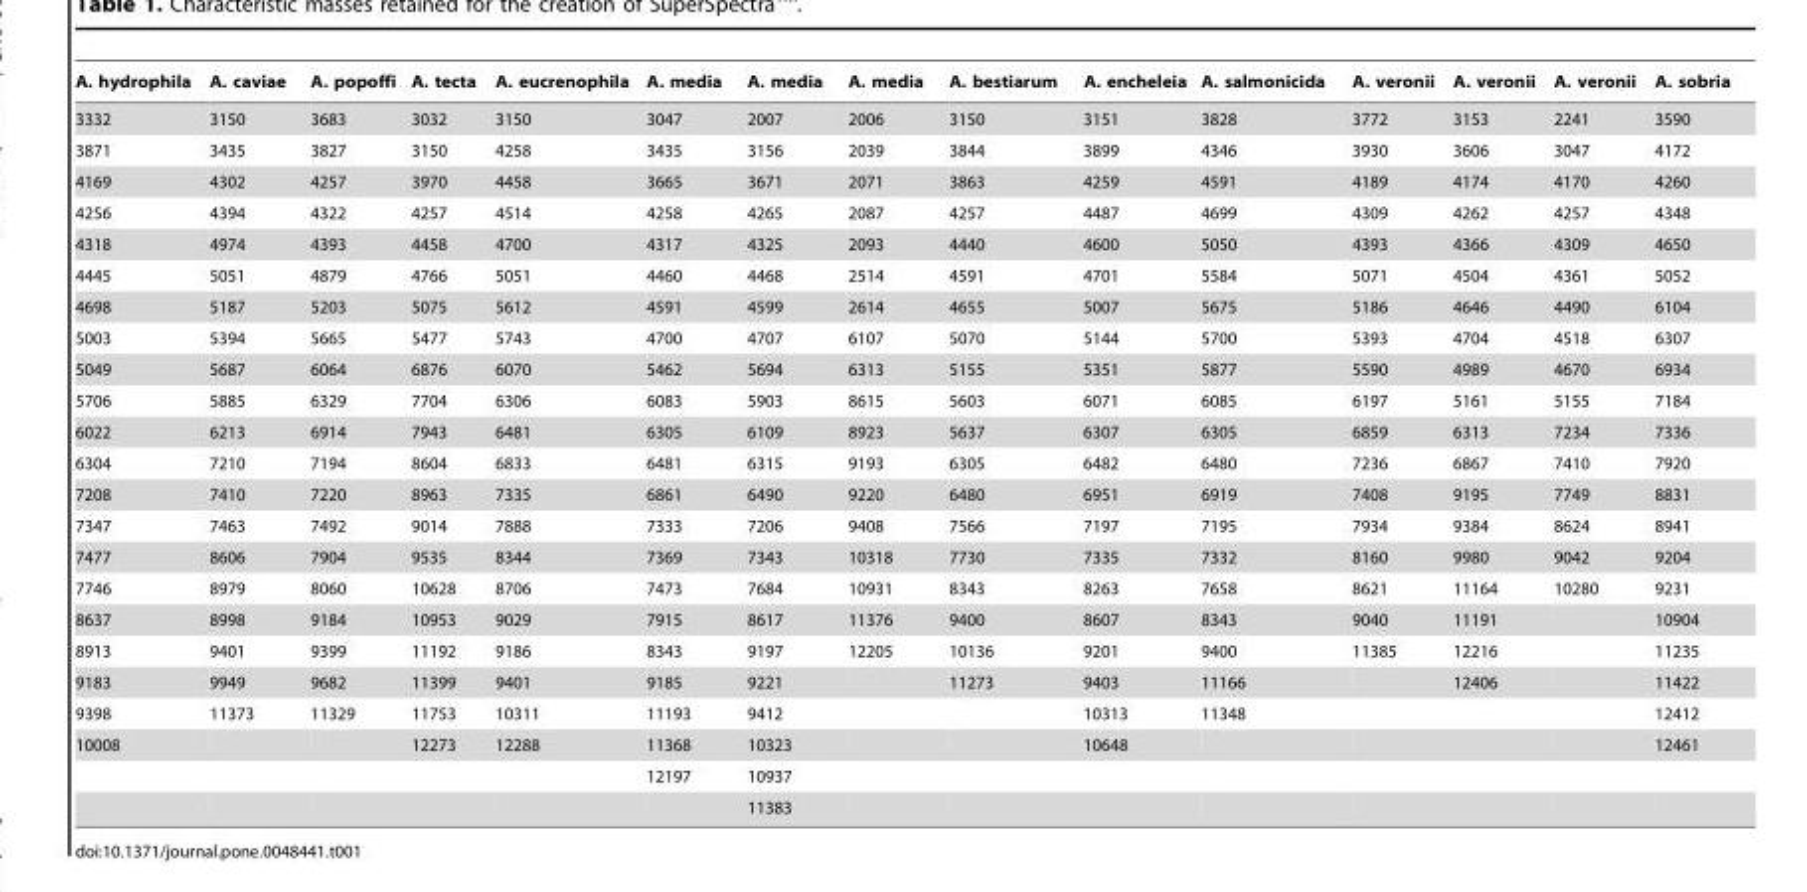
<table><thead><tr><td>A. hydrophila</td><td>A. caviae</td><td>A. popoffi</td><td>A. tecta</td><td>A. eucrenophila</td><td>A. media</td><td>A. media</td><td>A. media</td><td>A. bestiarum</td><td>A. encheleia</td><td>A. salmonicida</td><td>A. veronii</td><td>A. veronii</td><td>A. veronii</td><td>A. sobria</td></tr></thead><tbody><tr><td>3332</td><td>3150</td><td>3683</td><td>3032</td><td>3150</td><td>3047</td><td>2007</td><td>2006</td><td>3150</td><td>3151</td><td>3828</td><td>3772</td><td>3153</td><td>2241</td><td>3590</td></tr><tr><td>3871</td><td>3435</td><td>3827</td><td>3150</td><td>4258</td><td>3435</td><td>3156</td><td>2039</td><td>3844</td><td>3899</td><td>4346</td><td>3930</td><td>3606</td><td>3047</td><td>4172</td></tr><tr><td>4169</td><td>4302</td><td>4257</td><td>3970</td><td>4458</td><td>3665</td><td>3671</td><td>2071</td><td>3863</td><td>4259</td><td>4591</td><td>4189</td><td>4174</td><td>4170</td><td>4260</td></tr><tr><td>4256</td><td>4394</td><td>4322</td><td>4257</td><td>4514</td><td>4258</td><td>4265</td><td>2087</td><td>4257</td><td>4487</td><td>4699</td><td>4309</td><td>4262</td><td>4257</td><td>4348</td></tr><tr><td>4318</td><td>4974</td><td>4393</td><td>4458</td><td>4700</td><td>4317</td><td>4325</td><td>2093</td><td>4440</td><td>4600</td><td>5050</td><td>4393</td><td>4366</td><td>4309</td><td>4650</td></tr><tr><td>4445</td><td>5051</td><td>4879</td><td>4766</td><td>5051</td><td>4460</td><td>4468</td><td>2514</td><td>4591</td><td>4701</td><td>5584</td><td>5071</td><td>4504</td><td>4361</td><td>5052</td></tr><tr><td>4698</td><td>5187</td><td>5203</td><td>5075</td><td>5612</td><td>4591</td><td>4599</td><td>2614</td><td>4655</td><td>5007</td><td>5675</td><td>5186</td><td>4646</td><td>4490</td><td>6104</td></tr><tr><td>5003</td><td>5394</td><td>5665</td><td>5477</td><td>5743</td><td>4700</td><td>4707</td><td>6107</td><td>5070</td><td>5144</td><td>5700</td><td>5393</td><td>4704</td><td>4518</td><td>6307</td></tr><tr><td>5049</td><td>5687</td><td>6064</td><td>6876</td><td>6070</td><td>5462</td><td>5694</td><td>6313</td><td>5155</td><td>5351</td><td>5877</td><td>5590</td><td>4989</td><td>4670</td><td>6934</td></tr><tr><td>5706</td><td>5885</td><td>6329</td><td>7704</td><td>6306</td><td>6083</td><td>5903</td><td>8615</td><td>5603</td><td>6071</td><td>6085</td><td>6197</td><td>5161</td><td>5155</td><td>7184</td></tr><tr><td>6022</td><td>6213</td><td>6914</td><td>7943</td><td>6481</td><td>6305</td><td>6109</td><td>8923</td><td>5637</td><td>6307</td><td>6305</td><td>6859</td><td>6313</td><td>7234</td><td>7336</td></tr><tr><td>6304</td><td>7210</td><td>7194</td><td>8604</td><td>6833</td><td>6481</td><td>6315</td><td>9193</td><td>6305</td><td>6482</td><td>6480</td><td>7236</td><td>6867</td><td>7410</td><td>7920</td></tr><tr><td>7208</td><td>7410</td><td>7220</td><td>8963</td><td>7335</td><td>6861</td><td>6490</td><td>9220</td><td>6480</td><td>6951</td><td>6919</td><td>7408</td><td>9195</td><td>7749</td><td>8831</td></tr><tr><td>7347</td><td>7463</td><td>7492</td><td>9014</td><td>7888</td><td>7333</td><td>7206</td><td>9408</td><td>7566</td><td>7197</td><td>7195</td><td>7934</td><td>9384</td><td>8624</td><td>8941</td></tr><tr><td>7477</td><td>8606</td><td>7904</td><td>9535</td><td>8344</td><td>7369</td><td>7343</td><td>10318</td><td>7730</td><td>7335</td><td>7332</td><td>8160</td><td>9980</td><td>9042</td><td>9204</td></tr><tr><td>7746</td><td>8979</td><td>8060</td><td>10628</td><td>8706</td><td>7473</td><td>7684</td><td>10931</td><td>8343</td><td>8263</td><td>7658</td><td>8621</td><td>11164</td><td>10280</td><td>9231</td></tr><tr><td>8637</td><td>8998</td><td>9184</td><td>10953</td><td>9029</td><td>7915</td><td>8617</td><td>11376</td><td>9400</td><td>8607</td><td>8343</td><td>9040</td><td>11191</td><td></td><td>10904</td></tr><tr><td>8913</td><td>9401</td><td>9399</td><td>11192</td><td>9186</td><td>8343</td><td>9197</td><td>12205</td><td>10136</td><td>9201</td><td>9400</td><td>11385</td><td>12216</td><td></td><td>11235</td></tr><tr><td>9183</td><td>9949</td><td>9682</td><td>11399</td><td>9401</td><td>9185</td><td>9221</td><td></td><td>11273</td><td>9403</td><td>11166</td><td></td><td>12406</td><td></td><td>11422</td></tr><tr><td>9398</td><td>11373</td><td>11329</td><td>11753</td><td>10311</td><td>11193</td><td>9412</td><td></td><td></td><td>10313</td><td>11348</td><td></td><td></td><td></td><td>12412</td></tr><tr><td rowspan="3">10008</td><td></td><td></td><td>12273</td><td>12288</td><td>11368</td><td>10323</td><td></td><td></td><td>10648</td><td></td><td></td><td></td><td></td><td>12461</td></tr><tr><td></td><td></td><td></td><td></td><td>12197</td><td>10937</td><td></td><td></td><td></td><td></td><td></td><td></td><td></td><td></td></tr><tr><td></td><td></td><td></td><td></td><td></td><td>11383</td><td></td><td></td><td></td><td></td><td></td><td></td><td></td><td></td></tr></tbody></table>